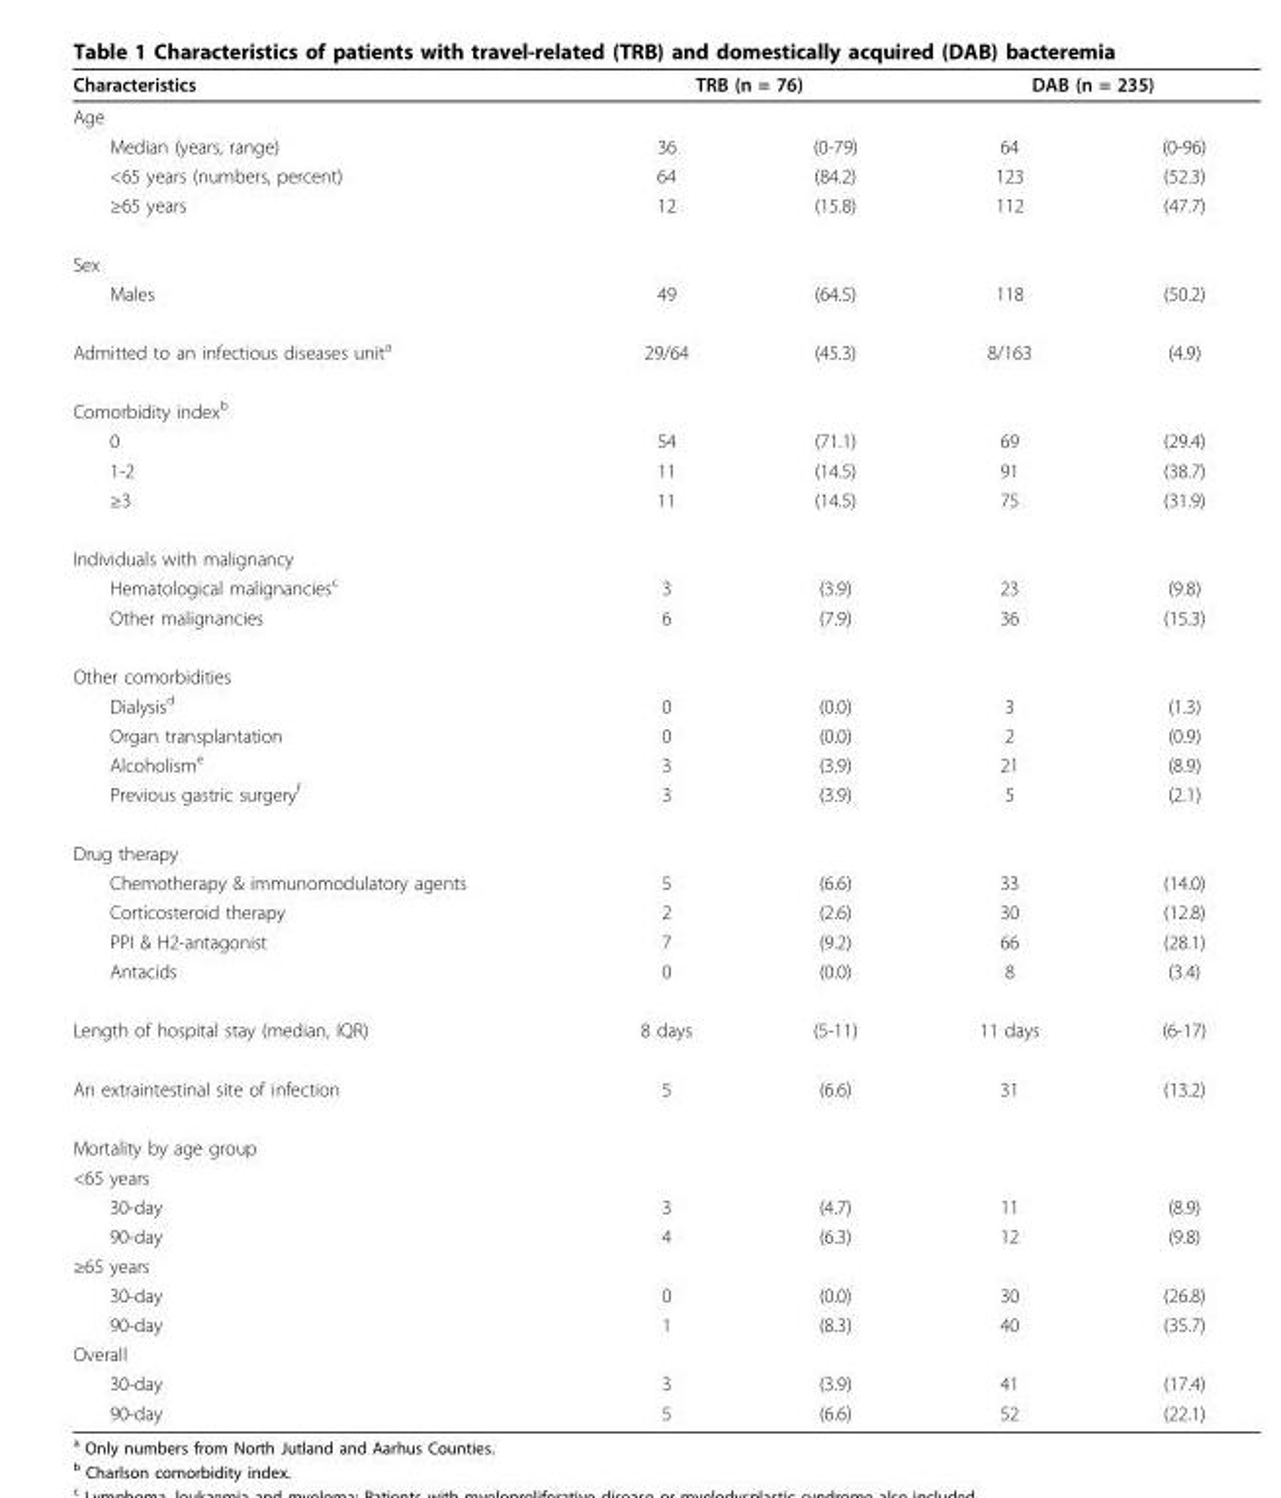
<table><thead><tr><td rowspan="2">Characteristics Age</td><td colspan="2">TRB (n = 76)</td><td colspan="2">DAB (n = 235)</td></tr><tr><td></td><td></td><td></td><td></td></tr></thead><tbody><tr><td>Median (years, range)</td><td>36</td><td>(0-79)</td><td>64</td><td>(0-96)</td></tr><tr><td>&lt;65 years (numbers, percent)</td><td>64</td><td>(84.2)</td><td>123</td><td>(52.3)</td></tr><tr><td>≥65 years</td><td>12</td><td>(15.8)</td><td>112</td><td>(47.7)</td></tr><tr><td colspan="5">Sex</td></tr><tr><td>Males</td><td>49</td><td>(64.5)</td><td>118</td><td>(50.2)</td></tr><tr><td>Admitted to an infectious diseases unit<sup>a</sup></td><td>29/64</td><td>(45.3)</td><td>8/163</td><td>(4.9)</td></tr><tr><td colspan="5">Comorbidity index<sup>b</sup></td></tr><tr><td>0</td><td>54</td><td>(71.1)</td><td>69</td><td>(29.4)</td></tr><tr><td>1-2</td><td>11</td><td>(14.5)</td><td>91</td><td>(38.7)</td></tr><tr><td>≥3</td><td>11</td><td>(14.5)</td><td>75</td><td>(31.9)</td></tr><tr><td colspan="5">Individuals with malignancy</td></tr><tr><td>Hematological malignancies<sup>c</sup></td><td>3</td><td>(3.9)</td><td>23</td><td>(9.8)</td></tr><tr><td>Other malignancies</td><td>6</td><td>(7.9)</td><td>36</td><td>(15.3)</td></tr><tr><td colspan="5">Other comorbidities</td></tr><tr><td>Dialysis<sup>d</sup></td><td>0</td><td>(0.0)</td><td>3</td><td>(1.3)</td></tr><tr><td>Organ transplantation</td><td>0</td><td>(0.0)</td><td>2</td><td>(0.9)</td></tr><tr><td>Alcoholism<sup>e</sup></td><td>3</td><td>(3.9)</td><td>21</td><td>(8.9)</td></tr><tr><td>Previous gastric surgery<sup>f</sup></td><td>3</td><td>(3.9)</td><td>5</td><td>(2.1)</td></tr><tr><td colspan="5">Drug therapy</td></tr><tr><td>Chemotherapy &amp; immunomodulatory agents</td><td>5</td><td>(6.6)</td><td>33</td><td>(14.0)</td></tr><tr><td>Corticosteroid therapy</td><td>2</td><td>(2.6)</td><td>30</td><td>(12.8)</td></tr><tr><td>PPI &amp; H2-antagonist</td><td>7</td><td>(9.2)</td><td>66</td><td>(28.1)</td></tr><tr><td>Antacids</td><td>0</td><td>(0.0)</td><td>8</td><td>(3.4)</td></tr><tr><td>Length of hospital stay (median, IQR)</td><td>8 days</td><td>(5-11)</td><td>11 days</td><td>(6-17)</td></tr><tr><td>An extraintestinal site of infection</td><td>5</td><td>(6.6)</td><td>31</td><td>(13.2)</td></tr><tr><td colspan="5">Mortality by age group</td></tr><tr><td colspan="5">&lt;65 years</td></tr><tr><td>30-day</td><td>3</td><td>(4.7)</td><td>11</td><td>(8.9)</td></tr><tr><td>90-day</td><td>4</td><td>(6.3)</td><td>12</td><td>(9.8)</td></tr><tr><td colspan="5">≥65 years</td></tr><tr><td>30-day</td><td>0</td><td>(0.0)</td><td>30</td><td>(26.8)</td></tr><tr><td>90-day</td><td>1</td><td>(8.3)</td><td>40</td><td>(35.7)</td></tr><tr><td colspan="5">Overall</td></tr><tr><td>30-day</td><td>3</td><td>(3.9)</td><td>41</td><td>(17.4)</td></tr><tr><td>90-day</td><td>5</td><td>(6.6)</td><td>52</td><td>(22.1)</td></tr></tbody></table>